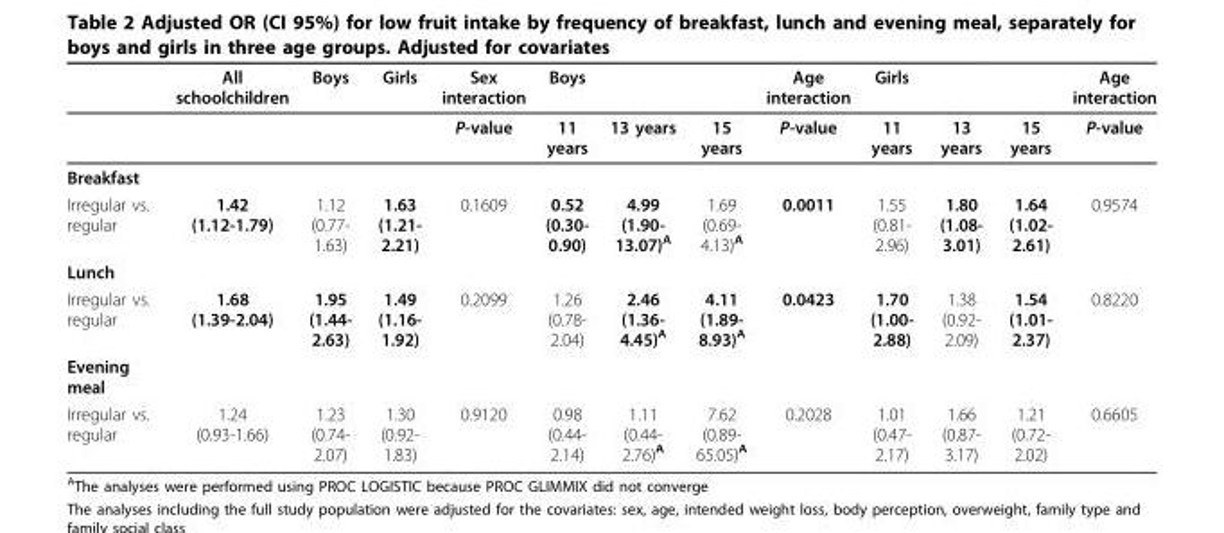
<table><thead><tr><td></td><td>All schoolchildren</td><td>Boys</td><td>Girls</td><td>Sex interaction</td><td>Boys</td><td></td><td></td><td>Age interaction</td><td>Girls</td><td></td><td></td><td>Age interaction</td></tr></thead><tbody><tr><td></td><td></td><td></td><td></td><td>P-value</td><td>11 years</td><td>13 years</td><td>15 years</td><td>P-value</td><td>11 years</td><td>13 years</td><td>15 years</td><td>P-value</td></tr><tr><td colspan="13">Breakfast</td></tr><tr><td>Irregular vs. regular</td><td>1.42 (1.12-1.79)</td><td>1.12 (0.77- 1.63)</td><td>1.63 (1.21- 2.21)</td><td>0.1609</td><td>0.52 (0.30- 0.90)</td><td>4.99 (1.90- 13.07)<sup>A</sup></td><td>1.69 (0.69- 4.13)<sup>A</sup></td><td>0.0011</td><td>1.55 (0.81- 2.96)</td><td>1.80 (1.08- 3.01)</td><td>1.64 (1.02- 2.61)</td><td>0.9574</td></tr><tr><td colspan="13">Lunch</td></tr><tr><td>Irregular vs. regular</td><td>1.68 (1.39-2.04)</td><td>1.95 (1.44- 2.63)</td><td>1.49 (1.16- 1.92)</td><td>0.2099</td><td>1.26 (0.78- 2.04)</td><td>2.46 (1.36- 4.45)<sup>A</sup></td><td>4.11 (1.89- 8.93)<sup>A</sup></td><td>0.0423</td><td>1.70 (1.00- 2.88)</td><td>1.38 (0.92- 2.09)</td><td>1.54 (1.01- 2.37)</td><td>0.8220</td></tr><tr><td colspan="13">Evening meal</td></tr><tr><td>Irregular vs. regular</td><td>1.24 (0.93-1.66)</td><td>1.23 (0.74- 2.07)</td><td>1.30 (0.92- 1.83)</td><td>0.9120</td><td>0.98 (0.44- 2.14)</td><td>1.11 (0.44- 2.76)<sup>A</sup></td><td>7.62 (0.89- 65.05)<sup>A</sup></td><td>0.2028</td><td>1.01 (0.47- 2.17)</td><td>1.66 (0.87- 3.17)</td><td>1.21 (0.72- 2.02)</td><td>0.6605</td></tr></tbody></table>